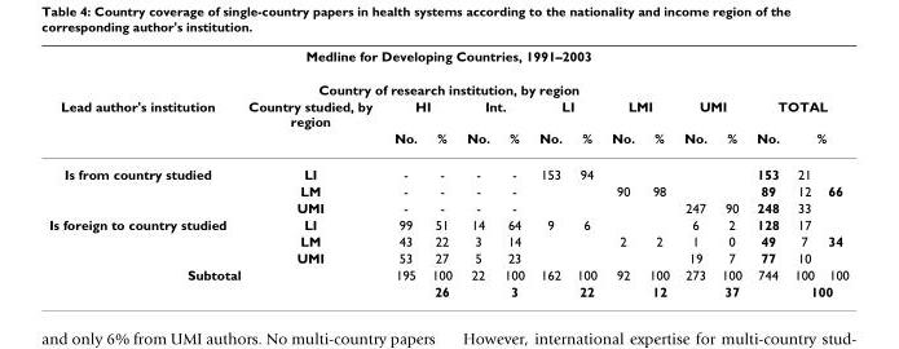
<table><thead><tr><td rowspan="2" colspan="15">Medline for Developing Countries, 1991–2003 Country of research institution, by region</td></tr><tr></tr><tr><td rowspan="3">Lead author&#x27;s institution Is from country studied</td><td rowspan="3">Country studied, by region LI</td><td colspan="2">HI</td><td colspan="2">Int.</td><td colspan="2">LI</td><td colspan="2">LMI</td><td colspan="2">UMI</td><td colspan="3">TOTAL</td></tr><tr><td rowspan="2">No. -</td><td rowspan="2">% -</td><td rowspan="2">No. -</td><td rowspan="2">% -</td><td rowspan="2">No. 153</td><td rowspan="2">% 94</td><td rowspan="2">No.</td><td rowspan="2">%</td><td rowspan="2">No.</td><td rowspan="2">%</td><td rowspan="2">No. 153</td><td colspan="2">%</td></tr><tr><td>21</td><td></td></tr></thead><tbody><tr><td></td><td>LM</td><td>-</td><td>-</td><td>-</td><td>-</td><td></td><td></td><td>90</td><td>98</td><td></td><td></td><td>89</td><td>12</td><td>66</td></tr><tr><td></td><td>UMI</td><td>-</td><td>-</td><td>-</td><td>-</td><td></td><td></td><td></td><td></td><td>247</td><td>90</td><td>248</td><td>33</td><td></td></tr><tr><td rowspan="3">Is foreign to country studied</td><td>LI</td><td>99</td><td>51</td><td>14</td><td>64</td><td>9</td><td>6</td><td></td><td></td><td>6</td><td>2</td><td>128</td><td>17</td><td></td></tr><tr><td>LM</td><td>43</td><td>22</td><td>3</td><td>14</td><td></td><td></td><td>2</td><td>2</td><td>1</td><td>0</td><td>49</td><td>7</td><td>34</td></tr><tr><td>UMI</td><td>53</td><td>27</td><td>5</td><td>23</td><td></td><td></td><td></td><td></td><td>19</td><td>7</td><td>77</td><td>10</td><td></td></tr><tr><td colspan="2">Subtotal</td><td>195</td><td>100</td><td>22</td><td>100</td><td>162</td><td>100</td><td>92</td><td>100</td><td>273</td><td>100</td><td>744</td><td>100</td><td>100</td></tr><tr><td></td><td></td><td></td><td>26</td><td></td><td>3</td><td></td><td>22</td><td></td><td>12</td><td></td><td>37</td><td></td><td colspan="2">100</td></tr></tbody></table>